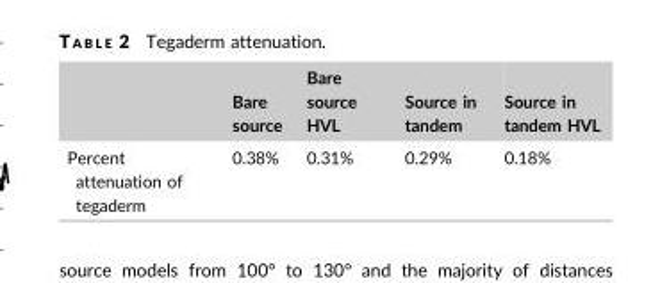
<table><thead><tr><td></td><td>Bare source</td><td>Bare source HVL</td><td>Source in tandem</td><td>Source in tandem HVL</td></tr></thead><tbody><tr><td>Percent attenuation of tegaderm</td><td>0.38%</td><td>0.31%</td><td>0.29%</td><td>0.18%</td></tr></tbody></table>